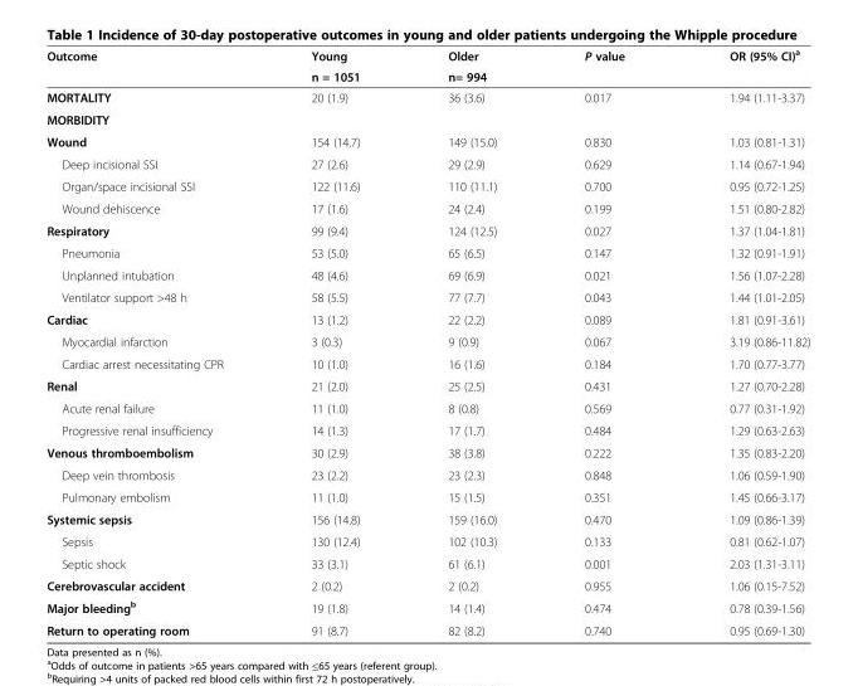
<table><thead><tr><td rowspan="2">Outcome</td><td rowspan="2">Young n = 1051</td><td rowspan="2">Older n= 994</td><td rowspan="2">P value</td><td rowspan="2">OR (95% CI)<sup>a</sup></td></tr><tr></tr></thead><tbody><tr><td>MORTALITY</td><td>20 (1.9)</td><td>36 (3.6)</td><td>0.017</td><td>1.94 (1.11-3.37)</td></tr><tr><td colspan="5">MORBIDITY</td></tr><tr><td>Wound</td><td>154 (14.7)</td><td>149 (15.0)</td><td>0.830</td><td>1.03 (0.81-1.31)</td></tr><tr><td>Deep incisional SSI</td><td>27 (2.6)</td><td>29 (2.9)</td><td>0.629</td><td>1.14 (0.67-1.94)</td></tr><tr><td>Organ/space incisional SSI</td><td>122 (11.6)</td><td>110 (11.1)</td><td>0.700</td><td>0.95 (0.72-1.25)</td></tr><tr><td>Wound dehiscence</td><td>17 (1.6)</td><td>24 (2.4)</td><td>0.199</td><td>1.51 (0.80-2.82)</td></tr><tr><td>Respiratory</td><td>99 (9.4)</td><td>124 (12.5)</td><td>0.027</td><td>1.37 (1.04-1.81)</td></tr><tr><td>Pneumonia</td><td>53 (5.0)</td><td>65 (6.5)</td><td>0.147</td><td>1.32 (0.91-1.91)</td></tr><tr><td>Unplanned intubation</td><td>48 (4.6)</td><td>69 (6.9)</td><td>0.021</td><td>1.56 (1.07-2.28)</td></tr><tr><td>Ventilator support &gt;48 h</td><td>58 (5.5)</td><td>77 (7.7)</td><td>0.043</td><td>1.44 (1.01-2.05)</td></tr><tr><td>Cardiac</td><td>13 (1.2)</td><td>22 (2.2)</td><td>0.089</td><td>1.81 (0.91-3.61)</td></tr><tr><td>Myocardial infarction</td><td>3 (0.3)</td><td>9 (0.9)</td><td>0.067</td><td>3.19 (0.86-11.82)</td></tr><tr><td>Cardiac arrest necessitating CPR</td><td>10 (1.0)</td><td>16 (1.6)</td><td>0.184</td><td>1.70 (0.77-3.77)</td></tr><tr><td>Renal</td><td>21 (2.0)</td><td>25 (2.5)</td><td>0.431</td><td>1.27 (0.70-2.28)</td></tr><tr><td>Acute renal failure</td><td>11 (1.0)</td><td>8 (0.8)</td><td>0.569</td><td>0.77 (0.31-1.92)</td></tr><tr><td>Progressive renal insufficiency</td><td>14 (1.3)</td><td>17 (1.7)</td><td>0.484</td><td>1.29 (0.63-2.63)</td></tr><tr><td>Venous thromboembolism</td><td>30 (2.9)</td><td>38 (3.8)</td><td>0.222</td><td>1.35 (0.83-2.20)</td></tr><tr><td>Deep vein thrombosis</td><td>23 (2.2)</td><td>23 (2.3)</td><td>0.848</td><td>1.06 (0.59-1.90)</td></tr><tr><td>Pulmonary embolism</td><td>11 (1.0)</td><td>15 (1.5)</td><td>0.351</td><td>1.45 (0.66-3.17)</td></tr><tr><td>Systemic sepsis</td><td>156 (14.8)</td><td>159 (16.0)</td><td>0.470</td><td>1.09 (0.86-1.39)</td></tr><tr><td>Sepsis</td><td>130 (12.4)</td><td>102 (10.3)</td><td>0.133</td><td>0.81 (0.62-1.07)</td></tr><tr><td>Septic shock</td><td>33 (3.1)</td><td>61 (6.1)</td><td>0.001</td><td>2.03 (1.31-3.11)</td></tr><tr><td>Cerebrovascular accident</td><td>2 (0.2)</td><td>2 (0.2)</td><td>0.955</td><td>1.06 (0.15-7.52)</td></tr><tr><td>Major bleeding<sup>b</sup></td><td>19 (1.8)</td><td>14 (1.4)</td><td>0.474</td><td>0.78 (0.39-1.56)</td></tr><tr><td>Return to operating room</td><td>91 (8.7)</td><td>82 (8.2)</td><td>0.740</td><td>0.95 (0.69-1.30)</td></tr></tbody></table>